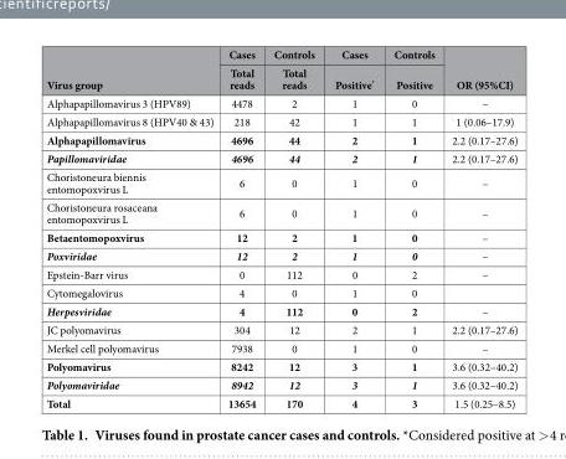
<table><thead><tr><td rowspan="2">Virus group</td><td rowspan="2">Cases Total reads</td><td rowspan="2">Controls Total reads</td><td rowspan="2">Cases Positive*</td><td rowspan="2">Controls Positive</td><td rowspan="2">OR (95%CI)</td></tr><tr></tr></thead><tbody><tr><td>Alphapapillomavirus 3 (HPV89)</td><td>4478</td><td>2</td><td>1</td><td>0</td><td>–</td></tr><tr><td>Alphapapillomavirus 8 (HPV40 &amp; 43)</td><td>218</td><td>42</td><td>1</td><td>1</td><td>1 (0.06–17.9)</td></tr><tr><td>Alphapapillomavirus</td><td>4696</td><td>44</td><td>2</td><td>1</td><td>2.2 (0.17–27.6)</td></tr><tr><td>Papillomaviridae</td><td>4696</td><td>44</td><td>2</td><td>1</td><td>2.2 (0.17–27.6)</td></tr><tr><td>Choristoneura biennis entomopoxvirus L</td><td>6</td><td>0</td><td>1</td><td>0</td><td>–</td></tr><tr><td>Choristoneura rosaceana entomopoxvirus L</td><td>6</td><td>0</td><td>1</td><td>0</td><td>–</td></tr><tr><td>Betaentomopoxvirus</td><td>12</td><td>2</td><td>1</td><td>0</td><td>–</td></tr><tr><td>Poxviridae</td><td>12</td><td>2</td><td>1</td><td>0</td><td>–</td></tr><tr><td>Epstein-Barr virus</td><td>0</td><td>112</td><td>0</td><td>2</td><td>–</td></tr><tr><td>Cytomegalovirus</td><td>4</td><td>0</td><td>1</td><td>0</td><td></td></tr><tr><td>Herpesviridae</td><td>4</td><td>112</td><td>0</td><td>2</td><td>–</td></tr><tr><td>JC polyomavirus</td><td>304</td><td>12</td><td>2</td><td>1</td><td>2.2 (0.17–27.6)</td></tr><tr><td>Merkel cell polyomavirus</td><td>7938</td><td>0</td><td>1</td><td>0</td><td>–</td></tr><tr><td>Polyomavirus</td><td>8242</td><td>12</td><td>3</td><td>1</td><td>3.6 (0.32–40.2)</td></tr><tr><td>Polyomaviridae</td><td>8942</td><td>12</td><td>3</td><td>1</td><td>3.6 (0.32–40.2)</td></tr><tr><td>Total</td><td>13654</td><td>170</td><td>4</td><td>3</td><td>1.5 (0.25–8.5)</td></tr></tbody></table>